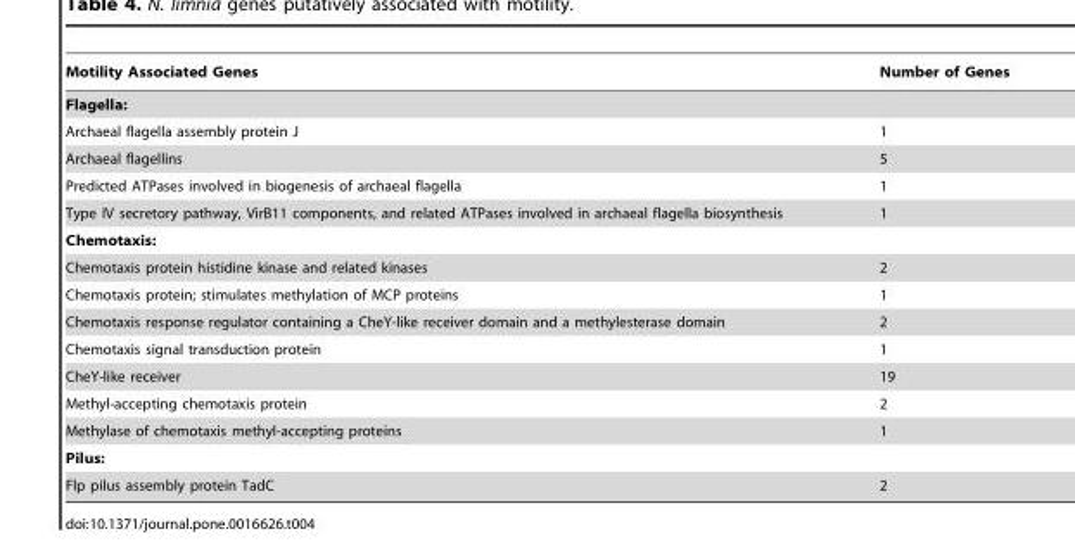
<table><thead><tr><td>Motility Associated Genes</td><td>Number of Genes</td></tr></thead><tbody><tr><td colspan="2">Flagella:</td></tr><tr><td>Archaeal flagella assembly protein J</td><td>1</td></tr><tr><td>Archaeal flagellins</td><td>5</td></tr><tr><td>Predicted ATPases involved in biogenesis of archaeal flagella</td><td>1</td></tr><tr><td>Type IV secretory pathway, VirB11 components, and related ATPases involved in archaeal flagella biosynthesis</td><td>1</td></tr><tr><td colspan="2">Chemotaxis:</td></tr><tr><td>Chemotaxis protein histidine kinase and related kinases</td><td>2</td></tr><tr><td>Chemotaxis protein; stimulates methylation of MCP proteins</td><td>1</td></tr><tr><td>Chemotaxis response regulator containing a CheY-like receiver domain and a methylesterase domain</td><td>2</td></tr><tr><td>Chemotaxis signal transduction protein</td><td>1</td></tr><tr><td>CheY-like receiver</td><td>19</td></tr><tr><td>Methyl-accepting chemotaxis protein</td><td>2</td></tr><tr><td>Methylase of chemotaxis methyl-accepting proteins</td><td>1</td></tr><tr><td colspan="2">Pilus:</td></tr><tr><td>Flp pilus assembly protein TadC</td><td>2</td></tr></tbody></table>